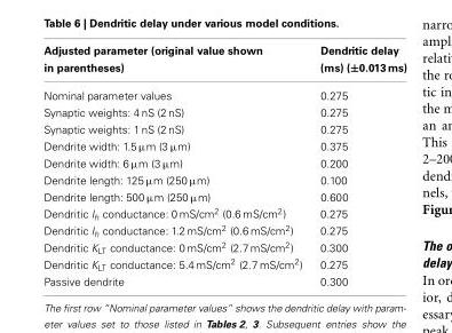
<table><thead><tr><td>Adjusted parameter (original value shown in parentheses)</td><td>Dendritic delay (ms) (±0.013ms)</td></tr></thead><tbody><tr><td>Nominal parameter values</td><td>0.275</td></tr><tr><td>Synaptic weights: 4 nS (2 nS)</td><td>0.275</td></tr><tr><td>Synaptic weights: 1 nS (2 nS)</td><td>0.275</td></tr><tr><td>Dendrite width: 1.5 μm (3 μm)</td><td>0.375</td></tr><tr><td>Dendrite width: 6 μm (3 μm)</td><td>0.200</td></tr><tr><td>Dendrite length: 125 μm (250 μm)</td><td>0.100</td></tr><tr><td>Dendrite length: 500 μm (250 μm)</td><td>0.600</td></tr><tr><td>Dendritic I<sub>h</sub> conductance: 0 mS/cm<sup>2</sup> (0.6 mS/cm<sup>2</sup>)</td><td>0.275</td></tr><tr><td>Dendritic I<sub>h</sub> conductance: 1.2 mS/cm<sup>2</sup> (0.6 mS/cm<sup>2</sup>)</td><td>0.275</td></tr><tr><td>Dendritic K<sub>LT</sub> conductance: 0 mS/cm<sup>2</sup> (2.7 mS/cm<sup>2</sup>)</td><td>0.300</td></tr><tr><td>Dendritic K<sub>LT</sub> conductance: 5.4 mS/cm<sup>2</sup> (2.7 mS/cm<sup>2</sup>)</td><td>0.275</td></tr><tr><td>Passive dendrite</td><td>0.300</td></tr></tbody></table>